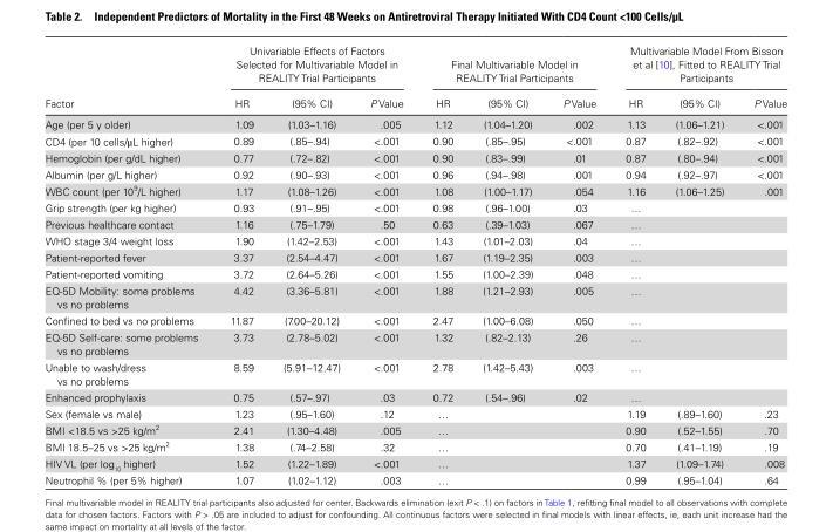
<table><thead><tr><td rowspan="2">Factor</td><td colspan="3">Univariable Effects of Factors Selected for Multivariable Model in REALITY Trial Participants</td><td colspan="3">Final Multivariable Model in REALITY Trial Participants</td><td colspan="3">Multivariable Model From Bisson et al [10], Fitted to REALITY Trial Participants</td></tr><tr><td>HR</td><td>(95% CI)</td><td>P Value</td><td>HR</td><td>(95% CI)</td><td>P Value</td><td>HR</td><td>(95% CI)</td><td>P Value</td></tr></thead><tbody><tr><td>Age (per 5 y older)</td><td>1.09</td><td>(1.03–1.16)</td><td>.005</td><td>1.12</td><td>(1.04–1.20)</td><td>.002</td><td>1.13</td><td>(1.06–1.21)</td><td>&lt;.001</td></tr><tr><td>CD4 (per 10 cells/µL higher)</td><td>0.89</td><td>(.85–.94)</td><td>&lt;.001</td><td>0.90</td><td>(.85–.95)</td><td>&lt;.001</td><td>0.87</td><td>(.82–.92)</td><td>&lt;.001</td></tr><tr><td>Hemoglobin (per g/dL higher)</td><td>0.77</td><td>(.72–.82)</td><td>&lt;.001</td><td>0.90</td><td>(.83–.99)</td><td>.01</td><td>0.87</td><td>(.80–.94)</td><td>&lt;.001</td></tr><tr><td>Albumin (per g/L higher)</td><td>0.92</td><td>(.90–.93)</td><td>&lt;.001</td><td>0.96</td><td>(.94–.98)</td><td>.001</td><td>0.94</td><td>(.92–.97)</td><td>&lt;.001</td></tr><tr><td>WBC count (per 10<sup>9</sup>/L higher)</td><td>1.17</td><td>(1.08–1.26)</td><td>&lt;.001</td><td>1.08</td><td>(1.00–1.17)</td><td>.054</td><td>1.16</td><td>(1.06–1.25)</td><td>.001</td></tr><tr><td>Grip strength (per kg higher)</td><td>0.93</td><td>(.91–.95)</td><td>&lt;.001</td><td>0.98</td><td>(.96–1.00)</td><td>.03</td><td>…</td><td></td><td></td></tr><tr><td>Previous healthcare contact</td><td>1.16</td><td>(.75–1.79)</td><td>.50</td><td>0.63</td><td>(.39–1.03)</td><td>.067</td><td>…</td><td></td><td></td></tr><tr><td>WHO stage 3/4 weight loss</td><td>1.90</td><td>(1.42–2.53)</td><td>&lt;.001</td><td>1.43</td><td>(1.01–2.03)</td><td>.04</td><td>…</td><td></td><td></td></tr><tr><td>Patient-reported fever</td><td>3.37</td><td>(2.54–4.47)</td><td>&lt;.001</td><td>1.67</td><td>(1.19–2.35)</td><td>.003</td><td>…</td><td></td><td></td></tr><tr><td>Patient-reported vomiting</td><td>3.72</td><td>(2.64–5.26)</td><td>&lt;.001</td><td>1.55</td><td>(1.00–2.39)</td><td>.048</td><td>…</td><td></td><td></td></tr><tr><td>EQ-5D Mobility: some problems vs no problems</td><td>4.42</td><td>(3.36–5.81)</td><td>&lt;.001</td><td>1.88</td><td>(1.21–2.93)</td><td>.005</td><td>…</td><td></td><td></td></tr><tr><td>Confined to bed vs no problems</td><td>11.87</td><td>(7.00–20.12)</td><td>&lt;.001</td><td>2.47</td><td>(1.00–6.08)</td><td>.050</td><td>…</td><td></td><td></td></tr><tr><td>EQ-5D Self-care: some problems vs no problems</td><td>3.73</td><td>(2.78–5.02)</td><td>&lt;.001</td><td>1.32</td><td>(.82–2.13)</td><td>.26</td><td>…</td><td></td><td></td></tr><tr><td>Unable to wash/dress vs no problems</td><td>8.59</td><td>(5.91–12.47)</td><td>&lt;.001</td><td>2.78</td><td>(1.42–5.43)</td><td>.003</td><td>…</td><td></td><td></td></tr><tr><td>Enhanced prophylaxis</td><td>0.75</td><td>(.57–.97)</td><td>.03</td><td>0.72</td><td>(.54–.96)</td><td>.02</td><td>…</td><td></td><td></td></tr><tr><td>Sex (female vs male)</td><td>1.23</td><td>(.95–1.60)</td><td>.12</td><td>…</td><td></td><td></td><td>1.19</td><td>(.89–1.60)</td><td>.23</td></tr><tr><td>BMI &lt;18.5 vs &gt;25 kg/m<sup>2</sup></td><td>2.41</td><td>(1.30–4.48)</td><td>.005</td><td>…</td><td></td><td></td><td>0.90</td><td>(.52–1.55)</td><td>.70</td></tr><tr><td>BMI 18.5–25 vs &gt;25 kg/m<sup>2</sup></td><td>1.38</td><td>(.74–2.58)</td><td>.32</td><td>…</td><td></td><td></td><td>0.70</td><td>(.41–1.19)</td><td>.19</td></tr><tr><td>HIV VL (per log<sub>10</sub> higher)</td><td>1.52</td><td>(1.22–1.89)</td><td>&lt;.001</td><td>…</td><td></td><td></td><td>1.37</td><td>(1.09–1.74)</td><td>.008</td></tr><tr><td>Neutrophil % (per 5% higher)</td><td>1.07</td><td>(1.02–1.12)</td><td>.003</td><td>…</td><td></td><td></td><td>0.99</td><td>(.95–1.04)</td><td>.64</td></tr></tbody></table>